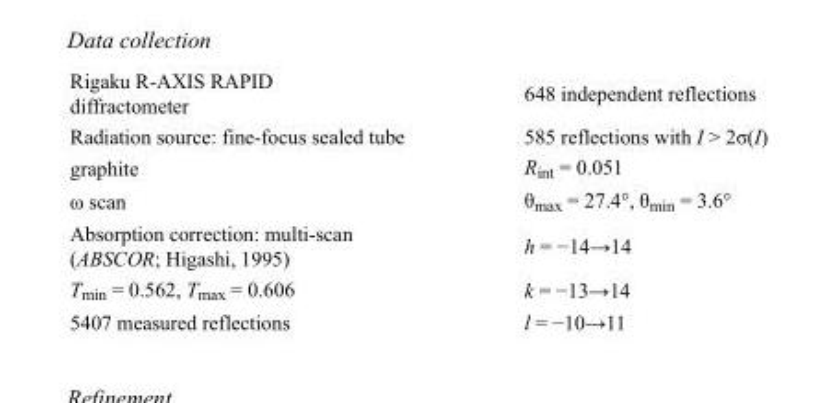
<table><tbody><tr><td>Rigaku R-AXIS RAPID diffractometer</td><td>648 independent reflections</td></tr><tr><td>Radiation source: fine-focus sealed tube</td><td>585 reflections with I &gt; 2σ(I)</td></tr><tr><td>graphite</td><td>R<sub>int</sub> = 0.051</td></tr><tr><td>ω scan</td><td>θ<sub>max</sub> = 27.4°, θ<sub>min</sub> = 3.6°</td></tr><tr><td>Absorption correction: multi-scan (ABSCOR; Higashi, 1995)</td><td>h = −14→14</td></tr><tr><td>T<sub>min</sub> = 0.562, T<sub>max</sub> = 0.606</td><td>k = −13→14</td></tr><tr><td>5407 measured reflections</td><td>l = −10→11</td></tr></tbody></table>